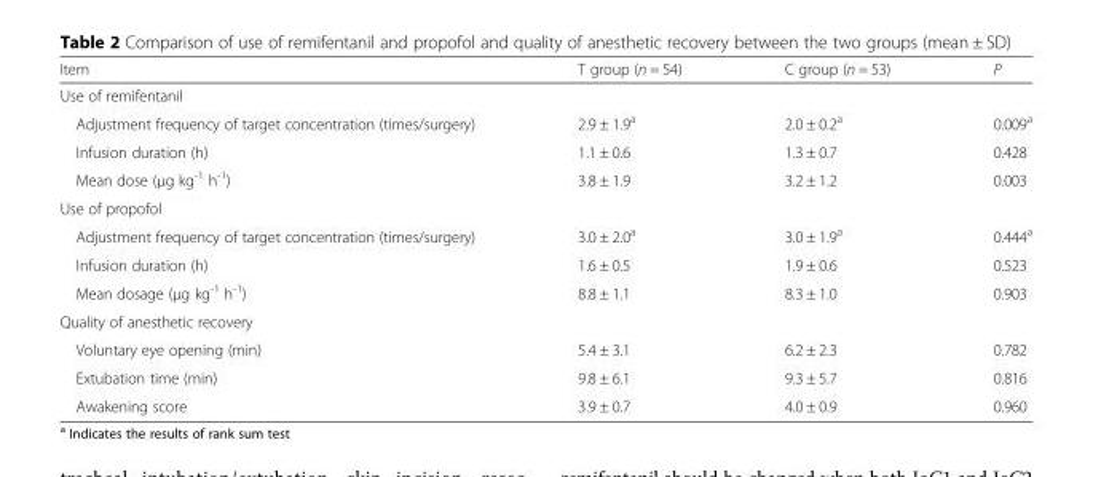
<table><thead><tr><td>Item</td><td>T group (n = 54)</td><td>C group (n = 53)</td><td>P</td></tr></thead><tbody><tr><td colspan="4">Use of remifentanil</td></tr><tr><td>Adjustment frequency of target concentration (times/surgery)</td><td>2.9 ± 1.9<sup>a</sup></td><td>2.0 ± 0.2<sup>a</sup></td><td>0.009<sup>a</sup></td></tr><tr><td>Infusion duration (h)</td><td>1.1 ± 0.6</td><td>1.3 ± 0.7</td><td>0.428</td></tr><tr><td>Mean dose (μg kg<sup>-1</sup> h<sup>-1</sup>)</td><td>3.8 ± 1.9</td><td>3.2 ± 1.2</td><td>0.003</td></tr><tr><td colspan="4">Use of propofol</td></tr><tr><td>Adjustment frequency of target concentration (times/surgery)</td><td>3.0 ± 2.0<sup>a</sup></td><td>3.0 ± 1.9<sup>a</sup></td><td>0.444<sup>a</sup></td></tr><tr><td>Infusion duration (h)</td><td>1.6 ± 0.5</td><td>1.9 ± 0.6</td><td>0.523</td></tr><tr><td>Mean dosage (μg kg<sup>-1</sup> h<sup>-1</sup>)</td><td>8.8 ± 1.1</td><td>8.3 ± 1.0</td><td>0.903</td></tr><tr><td colspan="4">Quality of anesthetic recovery</td></tr><tr><td>Voluntary eye opening (min)</td><td>5.4 ± 3.1</td><td>6.2 ± 2.3</td><td>0.782</td></tr><tr><td>Extubation time (min)</td><td>9.8 ± 6.1</td><td>9.3 ± 5.7</td><td>0.816</td></tr><tr><td>Awakening score</td><td>3.9 ± 0.7</td><td>4.0 ± 0.9</td><td>0.960</td></tr></tbody></table>